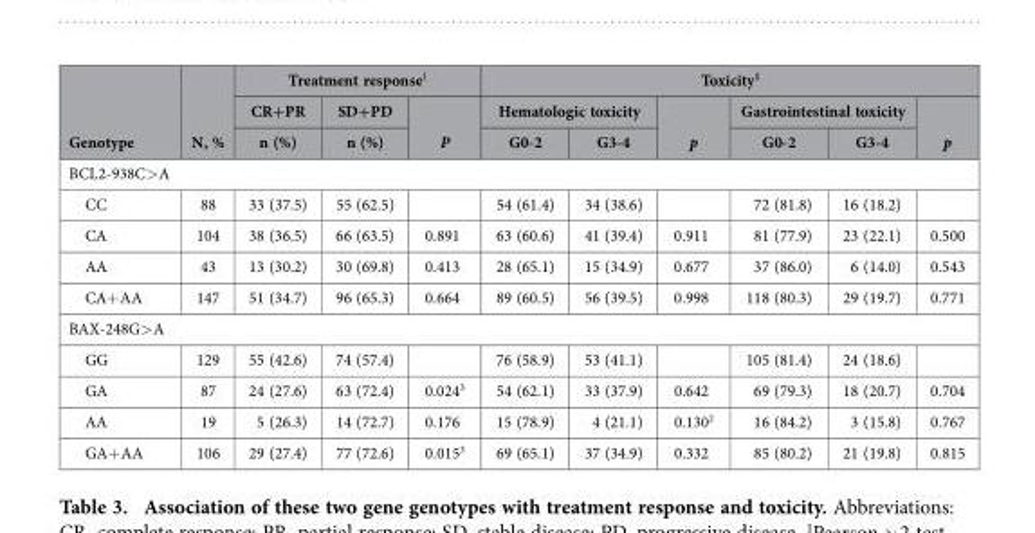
<table><thead><tr><td rowspan="3">Genotype</td><td rowspan="3">N, %</td><td colspan="3">Treatment response<sup>1</sup></td><td colspan="6">Toxicity<sup>1</sup></td></tr><tr><td rowspan="2">CR+PR n (%)</td><td rowspan="2">SD+PD n (%)</td><td rowspan="2">P</td><td colspan="2">Hematologic toxicity</td><td rowspan="2">p</td><td colspan="2">Gastrointestinal toxicity</td><td rowspan="2">p</td></tr><tr><td>G0-2</td><td>G3-4</td><td>G0-2</td><td>G3-4</td></tr></thead><tbody><tr><td colspan="11">BCL2-938C&gt; A</td></tr><tr><td>CC</td><td>88</td><td>33 (37.5)</td><td>55 (62.5)</td><td></td><td>54 (61.4)</td><td>34 (38.6)</td><td></td><td>72 (81.8)</td><td>16 (18.2)</td><td></td></tr><tr><td>CA</td><td>104</td><td>38 (36.5)</td><td>66 (63.5)</td><td>0.891</td><td>63 (60.6)</td><td>41 (39.4)</td><td>0.911</td><td>81 (77.9)</td><td>23 (22.1)</td><td>0.500</td></tr><tr><td>AA</td><td>43</td><td>13 (30.2)</td><td>30 (69.8)</td><td>0.413</td><td>28 (65.1)</td><td>15 (34.9)</td><td>0.677</td><td>37 (86.0)</td><td>6 (14.0)</td><td>0.543</td></tr><tr><td>CA+ AA</td><td>147</td><td>51 (34.7)</td><td>96 (65.3)</td><td>0.664</td><td>89 (60.5)</td><td>56 (39.5)</td><td>0.998</td><td>118 (80.3)</td><td>29 (19.7)</td><td>0.771</td></tr><tr><td colspan="11">BAX-248G&gt; A</td></tr><tr><td>GG</td><td>129</td><td>55 (42.6)</td><td>74 (57.4)</td><td></td><td>76 (58.9)</td><td>53 (41.1)</td><td></td><td>105 (81.4)</td><td>24 (18.6)</td><td></td></tr><tr><td>GA</td><td>87</td><td>24 (27.6)</td><td>63 (72.4)</td><td>0.024<sup>3</sup></td><td>54 (62.1)</td><td>33 (37.9)</td><td>0.642</td><td>69 (79.3)</td><td>18 (20.7)</td><td>0.704</td></tr><tr><td>AA</td><td>19</td><td>5 (26.3)</td><td>14 (72.7)</td><td>0.176</td><td>15 (78.9)</td><td>4 (21.1)</td><td>0.130<sup>2</sup></td><td>16 (84.2)</td><td>3 (15.8)</td><td>0.767</td></tr><tr><td>GA+ AA</td><td>106</td><td>29 (27.4)</td><td>77 (72.6)</td><td>0.015<sup>3</sup></td><td>69 (65.1)</td><td>37 (34.9)</td><td>0.332</td><td>85 (80.2)</td><td>21 (19.8)</td><td>0.815</td></tr></tbody></table>